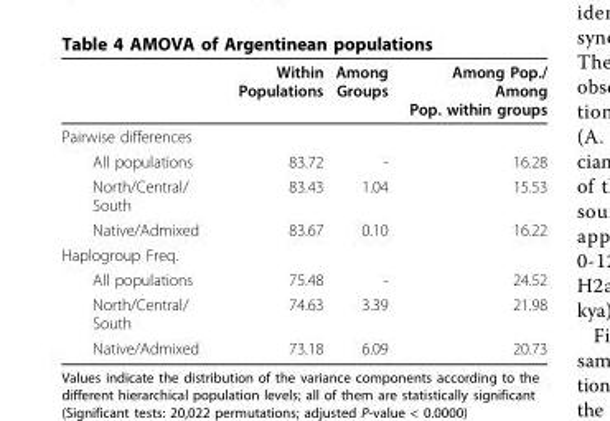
<table><thead><tr><td></td><td>Within Populations</td><td>Among Groups</td><td>Among Pop./ Among Pop. within groups</td></tr></thead><tbody><tr><td colspan="4">Pairwise differences</td></tr><tr><td>All populations</td><td>83.72</td><td>-</td><td>16.28</td></tr><tr><td>North/Central/ South</td><td>83.43</td><td>1.04</td><td>15.53</td></tr><tr><td>Native/Admixed</td><td>83.67</td><td>0.10</td><td>16.22</td></tr><tr><td colspan="4">Haplogroup Freq.</td></tr><tr><td>All populations</td><td>75.48</td><td>-</td><td>24.52</td></tr><tr><td>North/Central/ South</td><td>74.63</td><td>3.39</td><td>21.98</td></tr><tr><td>Native/Admixed</td><td>73.18</td><td>6.09</td><td>20.73</td></tr></tbody></table>